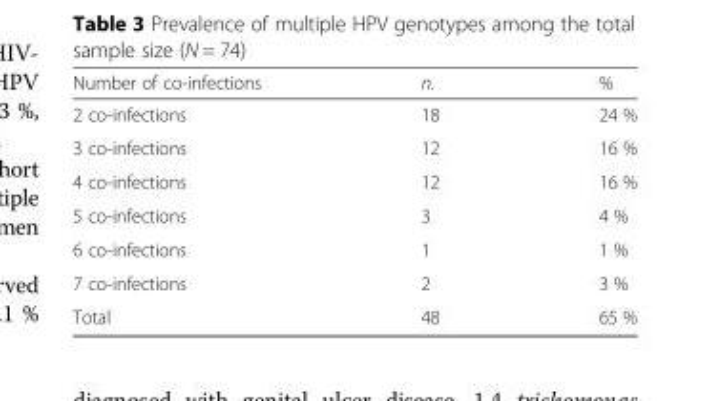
<table><thead><tr><td>Number of co-infections</td><td>n.</td><td>%</td></tr></thead><tbody><tr><td>2 co-infections</td><td>18</td><td>24 %</td></tr><tr><td>3 co-infections</td><td>12</td><td>16 %</td></tr><tr><td>4 co-infections</td><td>12</td><td>16 %</td></tr><tr><td>5 co-infections</td><td>3</td><td>4 %</td></tr><tr><td>6 co-infections</td><td>1</td><td>1 %</td></tr><tr><td>7 co-infections</td><td>2</td><td>3 %</td></tr><tr><td>Total</td><td>48</td><td>65 %</td></tr></tbody></table>